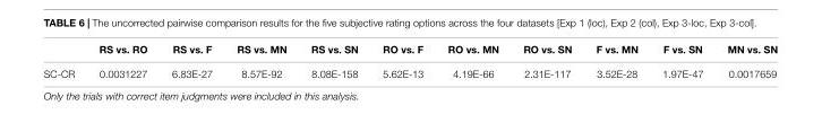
<table><thead><tr><td></td><td>RS vs. RO</td><td>RS vs. F</td><td>RS vs. MN</td><td>RS vs. SN</td><td>RO vs. F</td><td>RO vs. MN</td><td>RO vs. SN</td><td>F vs. MN</td><td>F vs. SN</td><td>MN vs. SN</td></tr></thead><tbody><tr><td>SC-CR</td><td>0.0031227</td><td>6.83E-27</td><td>8.57E-92</td><td>8.08E-158</td><td>5.62E-13</td><td>4.19E-66</td><td>2.31E-117</td><td>3.52E-28</td><td>1.97E-47</td><td>0.0017659</td></tr></tbody></table>